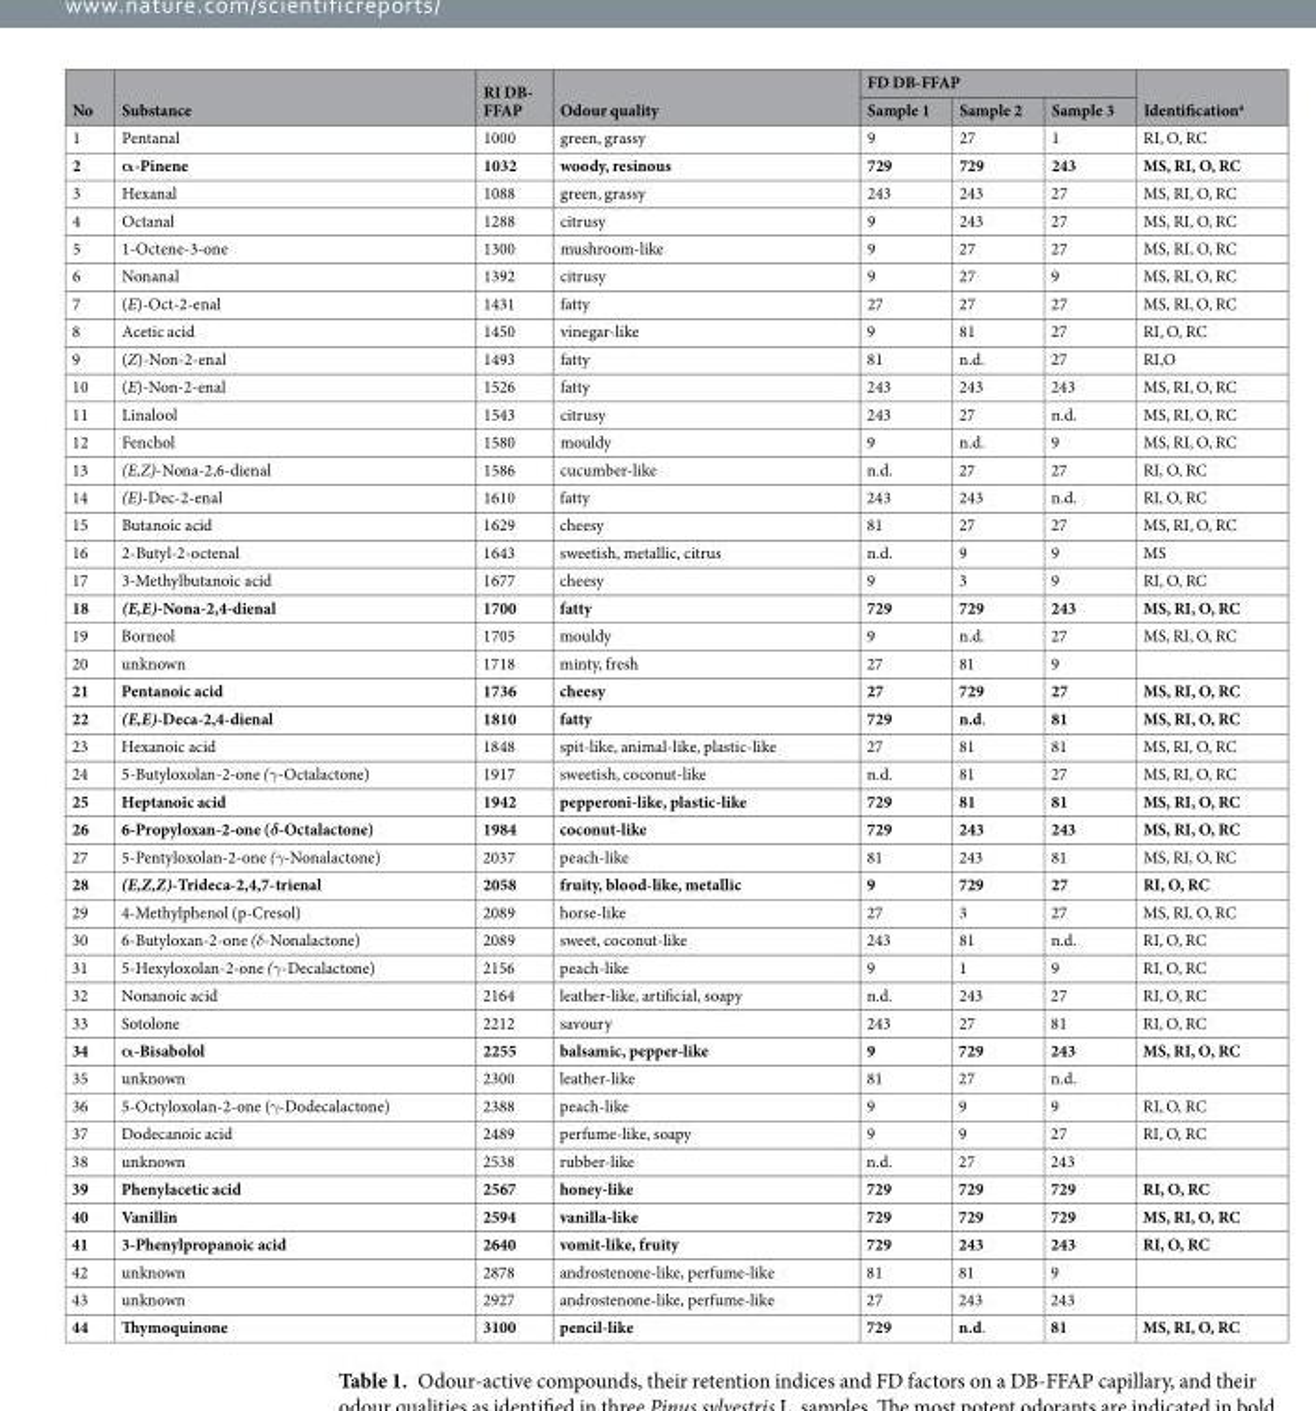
<table><thead><tr><td rowspan="2">No</td><td rowspan="2">Substance</td><td rowspan="2">RI DB- FFAP</td><td rowspan="2">Odour quality</td><td colspan="3">FD DB-FFAP</td><td rowspan="2">Identification<sup>a</sup></td></tr><tr><td>Sample 1</td><td>Sample 2</td><td>Sample 3</td></tr></thead><tbody><tr><td>1</td><td>Pentanal</td><td>1000</td><td>green, grassy</td><td>9</td><td>27</td><td>1</td><td>RI, O, RC</td></tr><tr><td>2</td><td>α-Pinene</td><td>1032</td><td>woody, resinous</td><td>729</td><td>729</td><td>243</td><td>MS, RI, O, RC</td></tr><tr><td>3</td><td>Hexanal</td><td>1088</td><td>green, grassy</td><td>243</td><td>243</td><td>27</td><td>MS, RI, O, RC</td></tr><tr><td>4</td><td>Octanal</td><td>1288</td><td>citrusy</td><td>9</td><td>243</td><td>27</td><td>MS, RI, O, RC</td></tr><tr><td>5</td><td>1-Octene-3-one</td><td>1300</td><td>mushroom-like</td><td>9</td><td>27</td><td>27</td><td>MS, RI, O, RC</td></tr><tr><td>6</td><td>Nonanal</td><td>1392</td><td>citrusy</td><td>9</td><td>27</td><td>9</td><td>MS, RI, O, RC</td></tr><tr><td>7</td><td>(E)-Oct-2-enal</td><td>1431</td><td>fatty</td><td>27</td><td>27</td><td>27</td><td>MS, RI, O, RC</td></tr><tr><td>8</td><td>Acetic acid</td><td>1450</td><td>vinegar-like</td><td>9</td><td>81</td><td>27</td><td>RI, O, RC</td></tr><tr><td>9</td><td>(Z)-Non-2-enal</td><td>1493</td><td>fatty</td><td>81</td><td>n.d.</td><td>27</td><td>RI,O</td></tr><tr><td>10</td><td>(E)-Non-2-enal</td><td>1526</td><td>fatty</td><td>243</td><td>243</td><td>243</td><td>MS, RI, O, RC</td></tr><tr><td>11</td><td>Linalool</td><td>1543</td><td>citrusy</td><td>243</td><td>27</td><td>n.d.</td><td>MS, RI, O, RC</td></tr><tr><td>12</td><td>Fenchol</td><td>1580</td><td>mouldy</td><td>9</td><td>n.d.</td><td>9</td><td>MS, RI, O, RC</td></tr><tr><td>13</td><td>(E,Z)-Nona-2,6-dienal</td><td>1586</td><td>cucumber-like</td><td>n.d.</td><td>27</td><td>27</td><td>RI, O, RC</td></tr><tr><td>14</td><td>(E)-Dec-2-enal</td><td>1610</td><td>fatty</td><td>243</td><td>243</td><td>n.d.</td><td>RI, O, RC</td></tr><tr><td>15</td><td>Butanoic acid</td><td>1629</td><td>cheesy</td><td>81</td><td>27</td><td>27</td><td>MS, RI, O, RC</td></tr><tr><td>16</td><td>2-Butyl-2-octenal</td><td>1643</td><td>sweetish, metallic, citrus</td><td>n.d.</td><td>9</td><td>9</td><td>MS</td></tr><tr><td>17</td><td>3-Methylbutanoic acid</td><td>1677</td><td>cheesy</td><td>9</td><td>3</td><td>9</td><td>RI, O, RC</td></tr><tr><td>18</td><td>(E,E)-Nona-2,4-dienal</td><td>1700</td><td>fatty</td><td>729</td><td>729</td><td>243</td><td>MS, RI, O, RC</td></tr><tr><td>19</td><td>Borneol</td><td>1705</td><td>mouldy</td><td>9</td><td>n.d.</td><td>27</td><td>MS, RI, O, RC</td></tr><tr><td>20</td><td>unknown</td><td>1718</td><td>minty, fresh</td><td>27</td><td>81</td><td>9</td><td></td></tr><tr><td>21</td><td>Pentanoic acid</td><td>1736</td><td>cheesy</td><td>27</td><td>729</td><td>27</td><td>MS, RI, O, RC</td></tr><tr><td>22</td><td>(E,E)-Deca-2,4-dienal</td><td>1810</td><td>fatty</td><td>729</td><td>n.d.</td><td>81</td><td>MS, RI, O, RC</td></tr><tr><td>23</td><td>Hexanoic acid</td><td>1848</td><td>spit-like, animal-like, plastic-like</td><td>27</td><td>81</td><td>81</td><td>MS, RI, O, RC</td></tr><tr><td>24</td><td>5-Butyloxolan-2-one (γ-Octalactone)</td><td>1917</td><td>sweetish, coconut-like</td><td>n.d.</td><td>81</td><td>27</td><td>MS, RI, O, RC</td></tr><tr><td>25</td><td>Heptanoic acid</td><td>1942</td><td>pepperoni-like, plastic-like</td><td>729</td><td>81</td><td>81</td><td>MS, RI, O, RC</td></tr><tr><td>26</td><td>6-Propyloxan-2-one (δ-Octalactone)</td><td>1984</td><td>coconut-like</td><td>729</td><td>243</td><td>243</td><td>MS, RI, O, RC</td></tr><tr><td>27</td><td>5-Pentyloxolan-2-one (γ-Nonalactone)</td><td>2037</td><td>peach-like</td><td>81</td><td>243</td><td>81</td><td>MS, RI, O, RC</td></tr><tr><td>28</td><td>(E,Z,Z)-Trideca-2,4,7-trienal</td><td>2058</td><td>fruity, blood-like, metallic</td><td>9</td><td>729</td><td>27</td><td>RI, O, RC</td></tr><tr><td>29</td><td>4-Methylphenol (p-Cresol)</td><td>2089</td><td>horse-like</td><td>27</td><td>3</td><td>27</td><td>MS, RI, O, RC</td></tr><tr><td>30</td><td>6-Butyloxan-2-one (δ-Nonalactone)</td><td>2089</td><td>sweet, coconut-like</td><td>243</td><td>81</td><td>n.d.</td><td>RI, O, RC</td></tr><tr><td>31</td><td>5-Hexyloxolan-2-one (γ-Decalactone)</td><td>2156</td><td>peach-like</td><td>9</td><td>1</td><td>9</td><td>RI, O, RC</td></tr><tr><td>32</td><td>Nonanoic acid</td><td>2164</td><td>leather-like, artificial, soapy</td><td>n.d.</td><td>243</td><td>27</td><td>RI, O, RC</td></tr><tr><td>33</td><td>Sotolone</td><td>2212</td><td>savoury</td><td>243</td><td>27</td><td>81</td><td>RI, O, RC</td></tr><tr><td>34</td><td>α-Bisabolol</td><td>2255</td><td>balsamic, pepper-like</td><td>9</td><td>729</td><td>243</td><td>MS, RI, O, RC</td></tr><tr><td>35</td><td>unknown</td><td>2300</td><td>leather-like</td><td>81</td><td>27</td><td>n.d.</td><td></td></tr><tr><td>36</td><td>5-Octyloxolan-2-one (γ-Dodecalactone)</td><td>2388</td><td>peach-like</td><td>9</td><td>9</td><td>9</td><td>RI, O, RC</td></tr><tr><td>37</td><td>Dodecanoic acid</td><td>2489</td><td>perfume-like, soapy</td><td>9</td><td>9</td><td>27</td><td>RI, O, RC</td></tr><tr><td>38</td><td>unknown</td><td>2538</td><td>rubber-like</td><td>n.d.</td><td>27</td><td>243</td><td></td></tr><tr><td>39</td><td>Phenylacetic acid</td><td>2567</td><td>honey-like</td><td>729</td><td>729</td><td>729</td><td>RI, O, RC</td></tr><tr><td>40</td><td>Vanillin</td><td>2594</td><td>vanilla-like</td><td>729</td><td>729</td><td>729</td><td>MS, RI, O, RC</td></tr><tr><td>41</td><td>3-Phenylpropanoic acid</td><td>2640</td><td>vomit-like, fruity</td><td>729</td><td>243</td><td>243</td><td>RI, O, RC</td></tr><tr><td>42</td><td>unknown</td><td>2878</td><td>androstenone-like, perfume-like</td><td>81</td><td>81</td><td>9</td><td></td></tr><tr><td>43</td><td>unknown</td><td>2927</td><td>androstenone-like, perfume-like</td><td>27</td><td>243</td><td>243</td><td></td></tr><tr><td>44</td><td>Thymoquinone</td><td>3100</td><td>pencil-like</td><td>729</td><td>n.d.</td><td>81</td><td>MS, RI, O, RC</td></tr></tbody></table>